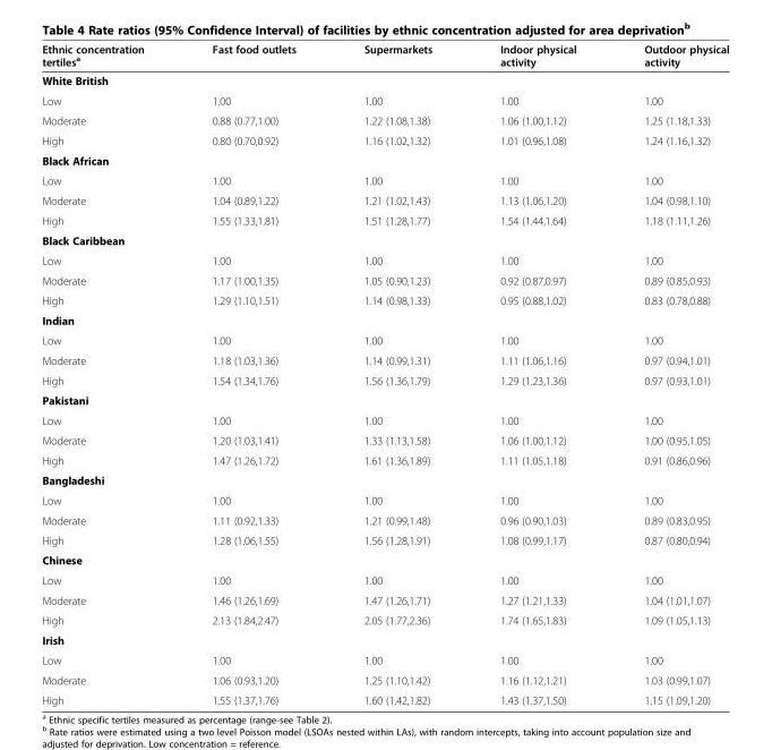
<table><thead><tr><td>Ethnic concentration tertiles<sup>a</sup></td><td>Fast food outlets</td><td>Supermarkets</td><td>Indoor physical activity</td><td>Outdoor physical activity</td></tr></thead><tbody><tr><td colspan="5">White British</td></tr><tr><td>Low</td><td>1.00</td><td>1.00</td><td>1.00</td><td>1.00</td></tr><tr><td>Moderate</td><td>0.88 (0.77,1.00)</td><td>1.22 (1.08,1.38)</td><td>1.06 (1.00,1.12)</td><td>1.25 (1.18,1.33)</td></tr><tr><td>High</td><td>0.80 (0.70,0.92)</td><td>1.16 (1.02,1.32)</td><td>1.01 (0.96,1.08)</td><td>1.24 (1.16,1.32)</td></tr><tr><td colspan="5">Black African</td></tr><tr><td>Low</td><td>1.00</td><td>1.00</td><td>1.00</td><td>1.00</td></tr><tr><td>Moderate</td><td>1.04 (0.89,1.22)</td><td>1.21 (1.02,1.43)</td><td>1.13 (1.06,1.20)</td><td>1.04 (0.98,1.10)</td></tr><tr><td>High</td><td>1.55 (1.33,1.81)</td><td>1.51 (1.28,1.77)</td><td>1.54 (1.44,1.64)</td><td>1.18 (1.11,1.26)</td></tr><tr><td colspan="5">Black Caribbean</td></tr><tr><td>Low</td><td>1.00</td><td>1.00</td><td>1.00</td><td>1.00</td></tr><tr><td>Moderate</td><td>1.17 (1.00,1.35)</td><td>1.05 (0.90,1.23)</td><td>0.92 (0.87,0.97)</td><td>0.89 (0.85,0.93)</td></tr><tr><td>High</td><td>1.29 (1.10,1.51)</td><td>1.14 (0.98,1.33)</td><td>0.95 (0.88,1.02)</td><td>0.83 (0.78,0.88)</td></tr><tr><td colspan="5">Indian</td></tr><tr><td>Low</td><td>1.00</td><td>1.00</td><td>1.00</td><td>1.00</td></tr><tr><td>Moderate</td><td>1.18 (1.03,1.36)</td><td>1.14 (0.99,1.31)</td><td>1.11 (1.06,1.16)</td><td>0.97 (0.94,1.01)</td></tr><tr><td>High</td><td>1.54 (1.34,1.76)</td><td>1.56 (1.36,1.79)</td><td>1.29 (1.23,1.36)</td><td>0.97 (0.93,1.01)</td></tr><tr><td colspan="5">Pakistani</td></tr><tr><td>Low</td><td>1.00</td><td>1.00</td><td>1.00</td><td>1.00</td></tr><tr><td>Moderate</td><td>1.20 (1.03,1.41)</td><td>1.33 (1.13,1.58)</td><td>1.06 (1.00,1.12)</td><td>1.00 (0.95,1.05)</td></tr><tr><td>High</td><td>1.47 (1.26,1.72)</td><td>1.61 (1.36,1.89)</td><td>1.11 (1.05,1.18)</td><td>0.91 (0.86,0.96)</td></tr><tr><td colspan="5">Bangladeshi</td></tr><tr><td>Low</td><td>1.00</td><td>1.00</td><td>1.00</td><td>1.00</td></tr><tr><td>Moderate</td><td>1.11 (0.92,1.33)</td><td>1.21 (0.99,1.48)</td><td>0.96 (0.90,1.03)</td><td>0.89 (0.83,0.95)</td></tr><tr><td>High</td><td>1.28 (1.06,1.55)</td><td>1.56 (1.28,1.91)</td><td>1.08 (0.99,1.17)</td><td>0.87 (0.80,0.94)</td></tr><tr><td colspan="5">Chinese</td></tr><tr><td>Low</td><td>1.00</td><td>1.00</td><td>1.00</td><td>1.00</td></tr><tr><td>Moderate</td><td>1.46 (1.26,1.69)</td><td>1.47 (1.26,1.71)</td><td>1.27 (1.21,1.33)</td><td>1.04 (1.01,1.07)</td></tr><tr><td>High</td><td>2.13 (1.84,2.47)</td><td>2.05 (1.77,2.36)</td><td>1.74 (1.65,1.83)</td><td>1.09 (1.05,1.13)</td></tr><tr><td colspan="5">Irish</td></tr><tr><td>Low</td><td>1.00</td><td>1.00</td><td>1.00</td><td>1.00</td></tr><tr><td>Moderate</td><td>1.06 (0.93,1.20)</td><td>1.25 (1.10,1.42)</td><td>1.16 (1.12,1.21)</td><td>1.03 (0.99,1.07)</td></tr><tr><td>High</td><td>1.55 (1.37,1.76)</td><td>1.60 (1.42,1.82)</td><td>1.43 (1.37,1.50)</td><td>1.15 (1.09,1.20)</td></tr></tbody></table>